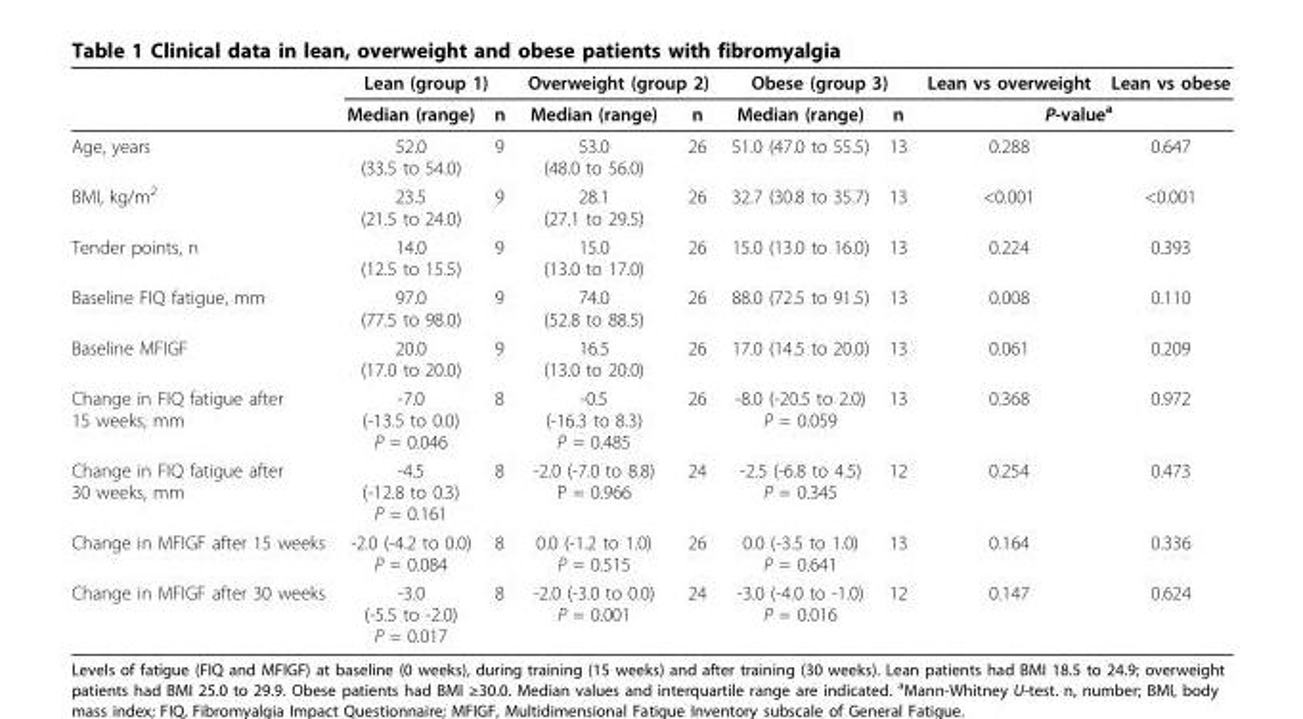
<table><thead><tr><td rowspan="2"></td><td colspan="2">Lean (group 1)</td><td colspan="2">Overweight (group 2)</td><td colspan="2">Obese (group 3)</td><td>Lean vs overweight</td><td>Lean vs obese</td></tr><tr><td>Median (range)</td><td>n</td><td>Median (range)</td><td>n</td><td>Median (range)</td><td>n</td><td colspan="2">P-value<sup>a</sup></td></tr></thead><tbody><tr><td>Age, years</td><td>52.0 (33.5 to 54.0)</td><td>9</td><td>53.0 (48.0 to 56.0)</td><td>26</td><td>51.0 (47.0 to 55.5)</td><td>13</td><td>0.288</td><td>0.647</td></tr><tr><td>BMI, kg/m<sup>2</sup></td><td>23.5 (21.5 to 24.0)</td><td>9</td><td>28.1 (27.1 to 29.5)</td><td>26</td><td>32.7 (30.8 to 35.7)</td><td>13</td><td>&lt;0.001</td><td>&lt;0.001</td></tr><tr><td>Tender points, n</td><td>14.0 (12.5 to 15.5)</td><td>9</td><td>15.0 (13.0 to 17.0)</td><td>26</td><td>15.0 (13.0 to 16.0)</td><td>13</td><td>0.224</td><td>0.393</td></tr><tr><td>Baseline FIQ fatigue, mm</td><td>97.0 (77.5 to 98.0)</td><td>9</td><td>74.0 (52.8 to 88.5)</td><td>26</td><td>88.0 (72.5 to 91.5)</td><td>13</td><td>0.008</td><td>0.110</td></tr><tr><td>Baseline MFIGF</td><td>20.0 (17.0 to 20.0)</td><td>9</td><td>16.5 (13.0 to 20.0)</td><td>26</td><td>17.0 (14.5 to 20.0)</td><td>13</td><td>0.061</td><td>0.209</td></tr><tr><td>Change in FIQ fatigue after 15 weeks, mm</td><td>-7.0 (-13.5 to 0.0) P = 0.046</td><td>8</td><td>-0.5 (-16.3 to 8.3) P = 0.485</td><td>26</td><td>-8.0 (-20.5 to 2.0) P = 0.059</td><td>13</td><td>0.368</td><td>0.972</td></tr><tr><td>Change in FIQ fatigue after 30 weeks, mm</td><td>-4.5 (-12.8 to 0.3) P = 0.161</td><td>8</td><td>-2.0 (-7.0 to 8.8) P = 0.966</td><td>24</td><td>-2.5 (-6.8 to 4.5) P = 0.345</td><td>12</td><td>0.254</td><td>0.473</td></tr><tr><td>Change in MFIGF after 15 weeks</td><td>-2.0 (-4.2 to 0.0) P = 0.084</td><td>8</td><td>0.0 (-1.2 to 1.0) P = 0.515</td><td>26</td><td>0.0 (-3.5 to 1.0) P = 0.641</td><td>13</td><td>0.164</td><td>0.336</td></tr><tr><td>Change in MFIGF after 30 weeks</td><td>-3.0 (-5.5 to -2.0) P = 0.017</td><td>8</td><td>-2.0 (-3.0 to 0.0) P = 0.001</td><td>24</td><td>-3.0 (-4.0 to -1.0) P = 0.016</td><td>12</td><td>0.147</td><td>0.624</td></tr></tbody></table>